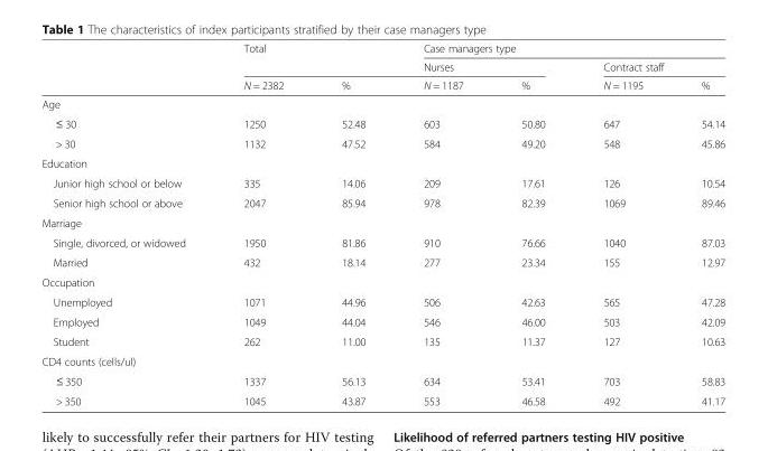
<table><thead><tr><td rowspan="3"></td><td rowspan="2" colspan="2">Total</td><td colspan="4">Case managers type</td></tr><tr><td colspan="2">Nurses</td><td colspan="2">Contract staff</td></tr><tr><td>N = 2382</td><td>%</td><td>N = 1187</td><td>%</td><td>N = 1195</td><td>%</td></tr></thead><tbody><tr><td colspan="7">Age</td></tr><tr><td>≤ 30</td><td>1250</td><td>52.48</td><td>603</td><td>50.80</td><td>647</td><td>54.14</td></tr><tr><td>&gt; 30</td><td>1132</td><td>47.52</td><td>584</td><td>49.20</td><td>548</td><td>45.86</td></tr><tr><td colspan="7">Education</td></tr><tr><td>Junior high school or below</td><td>335</td><td>14.06</td><td>209</td><td>17.61</td><td>126</td><td>10.54</td></tr><tr><td>Senior high school or above</td><td>2047</td><td>85.94</td><td>978</td><td>82.39</td><td>1069</td><td>89.46</td></tr><tr><td colspan="7">Marriage</td></tr><tr><td>Single, divorced, or widowed</td><td>1950</td><td>81.86</td><td>910</td><td>76.66</td><td>1040</td><td>87.03</td></tr><tr><td>Married</td><td>432</td><td>18.14</td><td>277</td><td>23.34</td><td>155</td><td>12.97</td></tr><tr><td colspan="7">Occupation</td></tr><tr><td>Unemployed</td><td>1071</td><td>44.96</td><td>506</td><td>42.63</td><td>565</td><td>47.28</td></tr><tr><td>Employed</td><td>1049</td><td>44.04</td><td>546</td><td>46.00</td><td>503</td><td>42.09</td></tr><tr><td>Student</td><td>262</td><td>11.00</td><td>135</td><td>11.37</td><td>127</td><td>10.63</td></tr><tr><td colspan="7">CD4 counts (cells/ul)</td></tr><tr><td>≤ 350</td><td>1337</td><td>56.13</td><td>634</td><td>53.41</td><td>703</td><td>58.83</td></tr><tr><td>&gt; 350</td><td>1045</td><td>43.87</td><td>553</td><td>46.58</td><td>492</td><td>41.17</td></tr></tbody></table>